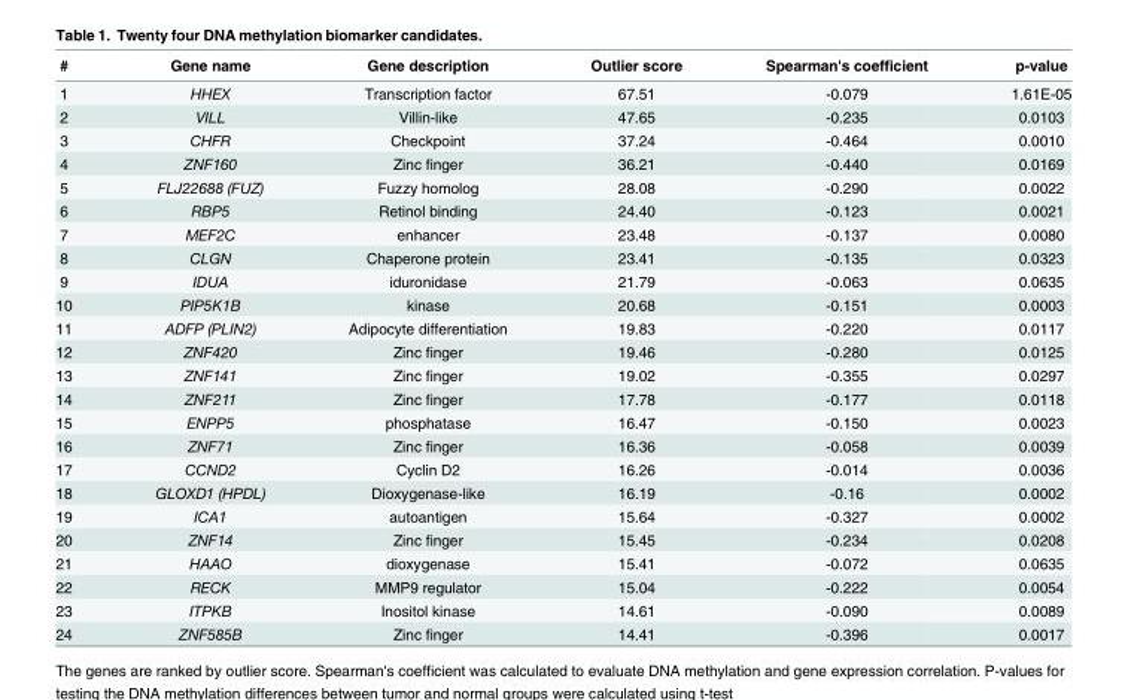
<table><thead><tr><td>#</td><td>Gene name</td><td>Gene description</td><td>Outlier score</td><td>Spearman&#x27;s coefficient</td><td>p-value</td></tr></thead><tbody><tr><td>1</td><td>HHEX</td><td>Transcription factor</td><td>67.51</td><td>-0.079</td><td>1.61E-05</td></tr><tr><td>2</td><td>VILL</td><td>Villin-like</td><td>47.65</td><td>-0.235</td><td>0.0103</td></tr><tr><td>3</td><td>CHFR</td><td>Checkpoint</td><td>37.24</td><td>-0.464</td><td>0.0010</td></tr><tr><td>4</td><td>ZNF160</td><td>Zinc finger</td><td>36.21</td><td>-0.440</td><td>0.0169</td></tr><tr><td>5</td><td>FLJ22688 (FUZ)</td><td>Fuzzy homolog</td><td>28.08</td><td>-0.290</td><td>0.0022</td></tr><tr><td>6</td><td>RBP5</td><td>Retinol binding</td><td>24.40</td><td>-0.123</td><td>0.0021</td></tr><tr><td>7</td><td>MEF2C</td><td>enhancer</td><td>23.48</td><td>-0.137</td><td>0.0080</td></tr><tr><td>8</td><td>CLGN</td><td>Chaperone protein</td><td>23.41</td><td>-0.135</td><td>0.0323</td></tr><tr><td>9</td><td>IDUA</td><td>iduronidase</td><td>21.79</td><td>-0.063</td><td>0.0635</td></tr><tr><td>10</td><td>PIP5K1B</td><td>kinase</td><td>20.68</td><td>-0.151</td><td>0.0003</td></tr><tr><td>11</td><td>ADFP (PLIN2)</td><td>Adipocyte differentiation</td><td>19.83</td><td>-0.220</td><td>0.0117</td></tr><tr><td>12</td><td>ZNF420</td><td>Zinc finger</td><td>19.46</td><td>-0.280</td><td>0.0125</td></tr><tr><td>13</td><td>ZNF141</td><td>Zinc finger</td><td>19.02</td><td>-0.355</td><td>0.0297</td></tr><tr><td>14</td><td>ZNF211</td><td>Zinc finger</td><td>17.78</td><td>-0.177</td><td>0.0118</td></tr><tr><td>15</td><td>ENPP5</td><td>phosphatase</td><td>16.47</td><td>-0.150</td><td>0.0023</td></tr><tr><td>16</td><td>ZNF71</td><td>Zinc finger</td><td>16.36</td><td>-0.058</td><td>0.0039</td></tr><tr><td>17</td><td>CCND2</td><td>Cyclin D2</td><td>16.26</td><td>-0.014</td><td>0.0036</td></tr><tr><td>18</td><td>GLOXD1 (HPDL)</td><td>Dioxygenase-like</td><td>16.19</td><td>-0.16</td><td>0.0002</td></tr><tr><td>19</td><td>ICA1</td><td>autoantigen</td><td>15.64</td><td>-0.327</td><td>0.0002</td></tr><tr><td>20</td><td>ZNF14</td><td>Zinc finger</td><td>15.45</td><td>-0.234</td><td>0.0208</td></tr><tr><td>21</td><td>HAAO</td><td>dioxygenase</td><td>15.41</td><td>-0.072</td><td>0.0635</td></tr><tr><td>22</td><td>RECK</td><td>MMP9 regulator</td><td>15.04</td><td>-0.222</td><td>0.0054</td></tr><tr><td>23</td><td>ITPKB</td><td>Inositol kinase</td><td>14.61</td><td>-0.090</td><td>0.0089</td></tr><tr><td>24</td><td>ZNF585B</td><td>Zinc finger</td><td>14.41</td><td>-0.396</td><td>0.0017</td></tr></tbody></table>